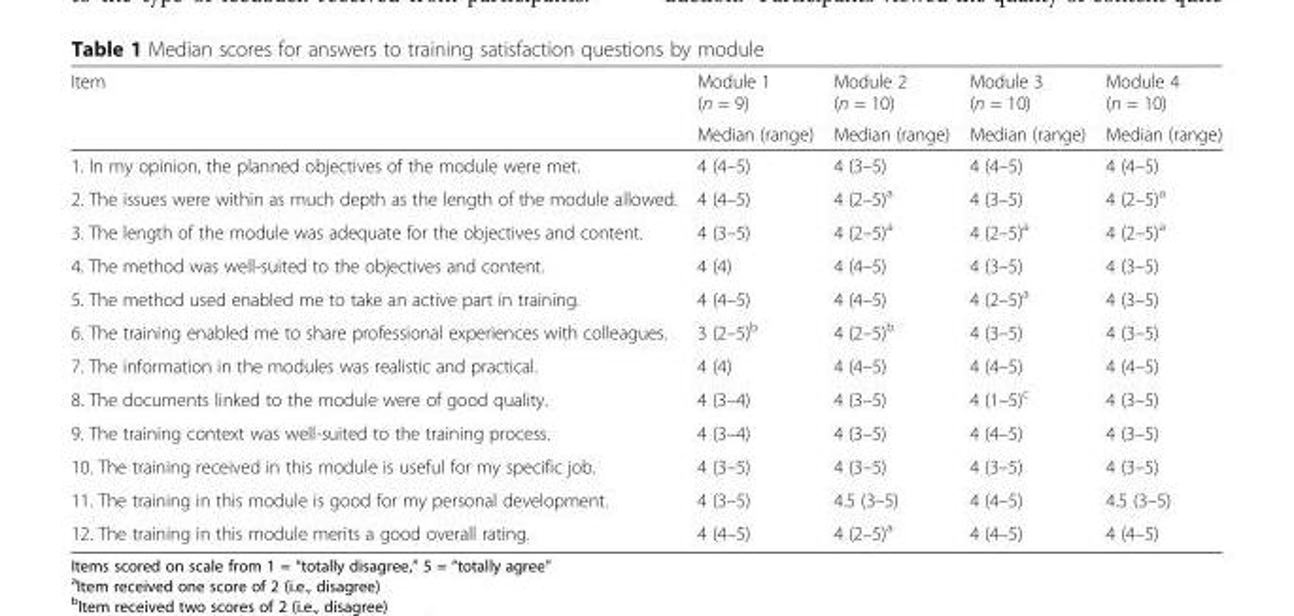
<table><thead><tr><td rowspan="2">Item</td><td rowspan="2">Module 1 (n = 9) Median (range)</td><td rowspan="2">Module 2 (n = 10) Median (range)</td><td rowspan="2">Module 3 (n = 10) Median (range)</td><td rowspan="2">Module 4 (n = 10) Median (range)</td></tr><tr></tr></thead><tbody><tr><td>1. In my opinion, the planned objectives of the module were met.</td><td>4 (4–5)</td><td>4 (3–5)</td><td>4 (4–5)</td><td>4 (4–5)</td></tr><tr><td>2. The issues were within as much depth as the length of the module allowed.</td><td>4 (4–5)</td><td>4 (2–5)<sup>a</sup></td><td>4 (3–5)</td><td>4 (2–5)<sup>a</sup></td></tr><tr><td>3. The length of the module was adequate for the objectives and content.</td><td>4 (3–5)</td><td>4 (2–5)<sup>a</sup></td><td>4 (2–5)<sup>a</sup></td><td>4 (2–5)<sup>a</sup></td></tr><tr><td>4. The method was well-suited to the objectives and content.</td><td>4 (4)</td><td>4 (4–5)</td><td>4 (3–5)</td><td>4 (3–5)</td></tr><tr><td>5. The method used enabled me to take an active part in training.</td><td>4 (4–5)</td><td>4 (4–5)</td><td>4 (2–5)<sup>a</sup></td><td>4 (3–5)</td></tr><tr><td>6. The training enabled me to share professional experiences with colleagues.</td><td>3 (2–5)<sup>b</sup></td><td>4 (2–5)<sup>b</sup></td><td>4 (3–5)</td><td>4 (3–5)</td></tr><tr><td>7. The information in the modules was realistic and practical.</td><td>4 (4)</td><td>4 (4–5)</td><td>4 (4–5)</td><td>4 (4–5)</td></tr><tr><td>8. The documents linked to the module were of good quality.</td><td>4 (3–4)</td><td>4 (3–5)</td><td>4 (1–5)<sup>c</sup></td><td>4 (3–5)</td></tr><tr><td>9. The training context was well-suited to the training process.</td><td>4 (3–4)</td><td>4 (3–5)</td><td>4 (4–5)</td><td>4 (3–5)</td></tr><tr><td>10. The training received in this module is useful for my specific job.</td><td>4 (3–5)</td><td>4 (3–5)</td><td>4 (3–5)</td><td>4 (3–5)</td></tr><tr><td>11. The training in this module is good for my personal development.</td><td>4 (3–5)</td><td>4.5 (3–5)</td><td>4 (4–5)</td><td>4.5 (3–5)</td></tr><tr><td>12. The training in this module merits a good overall rating.</td><td>4 (4–5)</td><td>4 (2–5)<sup>a</sup></td><td>4 (4–5)</td><td>4 (4–5)</td></tr></tbody></table>